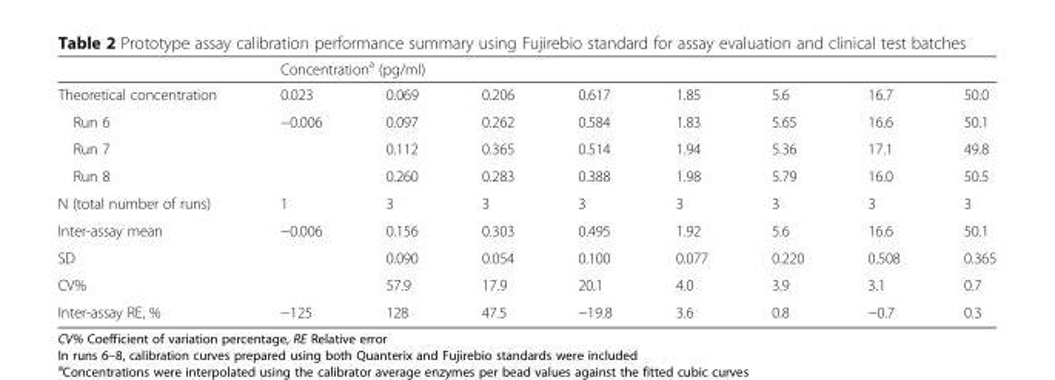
<table><thead><tr><td rowspan="2">Theoretical concentration</td><td colspan="8">Concentration<sup>a</sup> (pg/ml)</td></tr><tr><td>0.023</td><td>0.069</td><td>0.206</td><td>0.617</td><td>1.85</td><td>5.6</td><td>16.7</td><td>50.0</td></tr></thead><tbody><tr><td>Run 6</td><td>−0.006</td><td>0.097</td><td>0.262</td><td>0.584</td><td>1.83</td><td>5.65</td><td>16.6</td><td>50.1</td></tr><tr><td>Run 7</td><td></td><td>0.112</td><td>0.365</td><td>0.514</td><td>1.94</td><td>5.36</td><td>17.1</td><td>49.8</td></tr><tr><td>Run 8</td><td></td><td>0.260</td><td>0.283</td><td>0.388</td><td>1.98</td><td>5.79</td><td>16.0</td><td>50.5</td></tr><tr><td>N (total number of runs)</td><td>1</td><td>3</td><td>3</td><td>3</td><td>3</td><td>3</td><td>3</td><td>3</td></tr><tr><td>Inter-assay mean</td><td>−0.006</td><td>0.156</td><td>0.303</td><td>0.495</td><td>1.92</td><td>5.6</td><td>16.6</td><td>50.1</td></tr><tr><td>SD</td><td></td><td>0.090</td><td>0.054</td><td>0.100</td><td>0.077</td><td>0.220</td><td>0.508</td><td>0.365</td></tr><tr><td>CV%</td><td></td><td>57.9</td><td>17.9</td><td>20.1</td><td>4.0</td><td>3.9</td><td>3.1</td><td>0.7</td></tr><tr><td>Inter-assay RE, %</td><td>−125</td><td>128</td><td>47.5</td><td>−19.8</td><td>3.6</td><td>0.8</td><td>−0.7</td><td>0.3</td></tr></tbody></table>